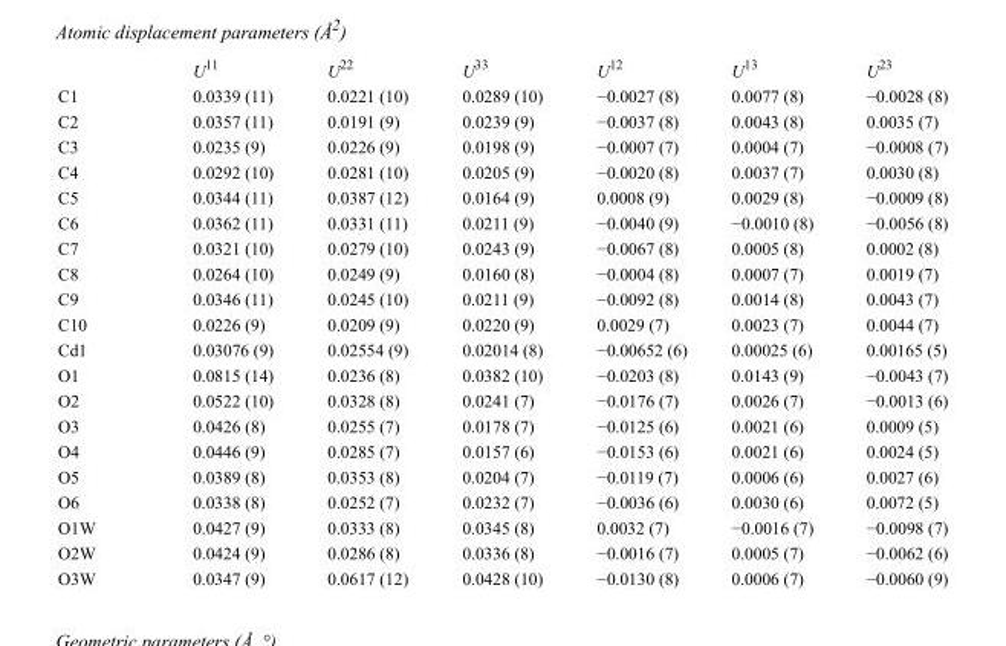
<table><thead><tr><td></td><td>U<sup>11</sup></td><td>U<sup>22</sup></td><td>U<sup>33</sup></td><td>U<sup>12</sup></td><td>U<sup>13</sup></td><td>U<sup>23</sup></td></tr></thead><tbody><tr><td>C1</td><td>0.0339 (11)</td><td>0.0221 (10)</td><td>0.0289 (10)</td><td>−0.0027 (8)</td><td>0.0077 (8)</td><td>−0.0028 (8)</td></tr><tr><td>C2</td><td>0.0357 (11)</td><td>0.0191 (9)</td><td>0.0239 (9)</td><td>−0.0037 (8)</td><td>0.0043 (8)</td><td>0.0035 (7)</td></tr><tr><td>C3</td><td>0.0235 (9)</td><td>0.0226 (9)</td><td>0.0198 (9)</td><td>−0.0007 (7)</td><td>0.0004 (7)</td><td>−0.0008 (7)</td></tr><tr><td>C4</td><td>0.0292 (10)</td><td>0.0281 (10)</td><td>0.0205 (9)</td><td>−0.0020 (8)</td><td>0.0037 (7)</td><td>0.0030 (8)</td></tr><tr><td>C5</td><td>0.0344 (11)</td><td>0.0387 (12)</td><td>0.0164 (9)</td><td>0.0008 (9)</td><td>0.0029 (8)</td><td>−0.0009 (8)</td></tr><tr><td>C6</td><td>0.0362 (11)</td><td>0.0331 (11)</td><td>0.0211 (9)</td><td>−0.0040 (9)</td><td>−0.0010 (8)</td><td>−0.0056 (8)</td></tr><tr><td>C7</td><td>0.0321 (10)</td><td>0.0279 (10)</td><td>0.0243 (9)</td><td>−0.0067 (8)</td><td>0.0005 (8)</td><td>0.0002 (8)</td></tr><tr><td>C8</td><td>0.0264 (10)</td><td>0.0249 (9)</td><td>0.0160 (8)</td><td>−0.0004 (8)</td><td>0.0007 (7)</td><td>0.0019 (7)</td></tr><tr><td>C9</td><td>0.0346 (11)</td><td>0.0245 (10)</td><td>0.0211 (9)</td><td>−0.0092 (8)</td><td>0.0014 (8)</td><td>0.0043 (7)</td></tr><tr><td>C10</td><td>0.0226 (9)</td><td>0.0209 (9)</td><td>0.0220 (9)</td><td>0.0029 (7)</td><td>0.0023 (7)</td><td>0.0044 (7)</td></tr><tr><td>Cd1</td><td>0.03076 (9)</td><td>0.02554 (9)</td><td>0.02014 (8)</td><td>−0.00652 (6)</td><td>0.00025 (6)</td><td>0.00165 (5)</td></tr><tr><td>O1</td><td>0.0815 (14)</td><td>0.0236 (8)</td><td>0.0382 (10)</td><td>−0.0203 (8)</td><td>0.0143 (9)</td><td>−0.0043 (7)</td></tr><tr><td>O2</td><td>0.0522 (10)</td><td>0.0328 (8)</td><td>0.0241 (7)</td><td>−0.0176 (7)</td><td>0.0026 (7)</td><td>−0.0013 (6)</td></tr><tr><td>O3</td><td>0.0426 (8)</td><td>0.0255 (7)</td><td>0.0178 (7)</td><td>−0.0125 (6)</td><td>0.0021 (6)</td><td>0.0009 (5)</td></tr><tr><td>O4</td><td>0.0446 (9)</td><td>0.0285 (7)</td><td>0.0157 (6)</td><td>−0.0153 (6)</td><td>0.0021 (6)</td><td>0.0024 (5)</td></tr><tr><td>O5</td><td>0.0389 (8)</td><td>0.0353 (8)</td><td>0.0204 (7)</td><td>−0.0119 (7)</td><td>0.0006 (6)</td><td>0.0027 (6)</td></tr><tr><td>O6</td><td>0.0338 (8)</td><td>0.0252 (7)</td><td>0.0232 (7)</td><td>−0.0036 (6)</td><td>0.0030 (6)</td><td>0.0072 (5)</td></tr><tr><td>O1W</td><td>0.0427 (9)</td><td>0.0333 (8)</td><td>0.0345 (8)</td><td>0.0032 (7)</td><td>−0.0016 (7)</td><td>−0.0098 (7)</td></tr><tr><td>O2W</td><td>0.0424 (9)</td><td>0.0286 (8)</td><td>0.0336 (8)</td><td>−0.0016 (7)</td><td>0.0005 (7)</td><td>−0.0062 (6)</td></tr><tr><td>O3W</td><td>0.0347 (9)</td><td>0.0617 (12)</td><td>0.0428 (10)</td><td>−0.0130 (8)</td><td>0.0006 (7)</td><td>−0.0060 (9)</td></tr></tbody></table>